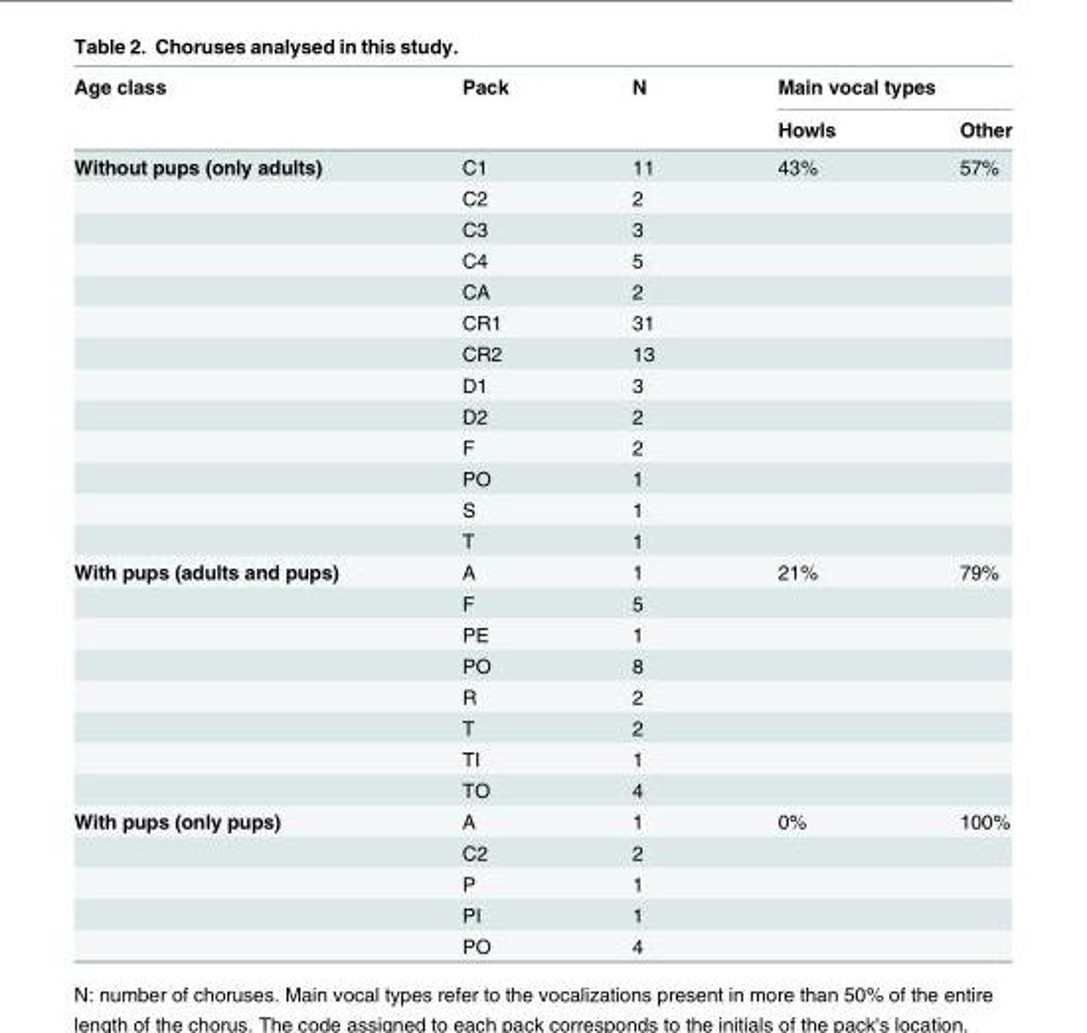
<table><thead><tr><td rowspan="2">Age class</td><td rowspan="2">Pack</td><td rowspan="2">N</td><td colspan="2">Main vocal types</td></tr><tr><td>Howls</td><td>Other</td></tr></thead><tbody><tr><td rowspan="13">Without pups (only adults)</td><td>C1</td><td>11</td><td>43%</td><td>57%</td></tr><tr><td>C2</td><td>2</td><td></td><td></td></tr><tr><td>C3</td><td>3</td><td></td><td></td></tr><tr><td>C4</td><td>5</td><td></td><td></td></tr><tr><td>CA</td><td>2</td><td></td><td></td></tr><tr><td>CR1</td><td>31</td><td></td><td></td></tr><tr><td>CR2</td><td>13</td><td></td><td></td></tr><tr><td>D1</td><td>3</td><td></td><td></td></tr><tr><td>D2</td><td>2</td><td></td><td></td></tr><tr><td>F</td><td>2</td><td></td><td></td></tr><tr><td>PO</td><td>1</td><td></td><td></td></tr><tr><td>S</td><td>1</td><td></td><td></td></tr><tr><td>T</td><td>1</td><td></td><td></td></tr><tr><td rowspan="8">With pups (adults and pups)</td><td>A</td><td>1</td><td>21%</td><td>79%</td></tr><tr><td>F</td><td>5</td><td></td><td></td></tr><tr><td>PE</td><td>1</td><td></td><td></td></tr><tr><td>PO</td><td>8</td><td></td><td></td></tr><tr><td>R</td><td>2</td><td></td><td></td></tr><tr><td>T</td><td>2</td><td></td><td></td></tr><tr><td>TI</td><td>1</td><td></td><td></td></tr><tr><td>TO</td><td>4</td><td></td><td></td></tr><tr><td rowspan="5">With pups (only pups)</td><td>A</td><td>1</td><td>0%</td><td>100%</td></tr><tr><td>C2</td><td>2</td><td></td><td></td></tr><tr><td>P</td><td>1</td><td></td><td></td></tr><tr><td>PI</td><td>1</td><td></td><td></td></tr><tr><td>PO</td><td>4</td><td></td><td></td></tr></tbody></table>